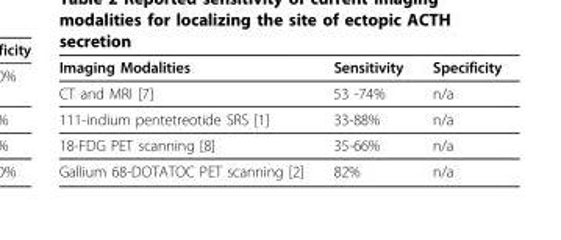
<table><thead><tr><td>Imaging Modalities</td><td>Sensitivity</td><td>Specificity</td></tr></thead><tbody><tr><td>CT and MRI [7]</td><td>53 -74%</td><td>n/a</td></tr><tr><td>111-indium pentetreotide SRS [1]</td><td>33-88%</td><td>n/a</td></tr><tr><td>18-FDG PET scanning [8]</td><td>35-66%</td><td>n/a</td></tr><tr><td>Gallium 68-DOTATOC PET scanning [2]</td><td>82%</td><td>n/a</td></tr></tbody></table>